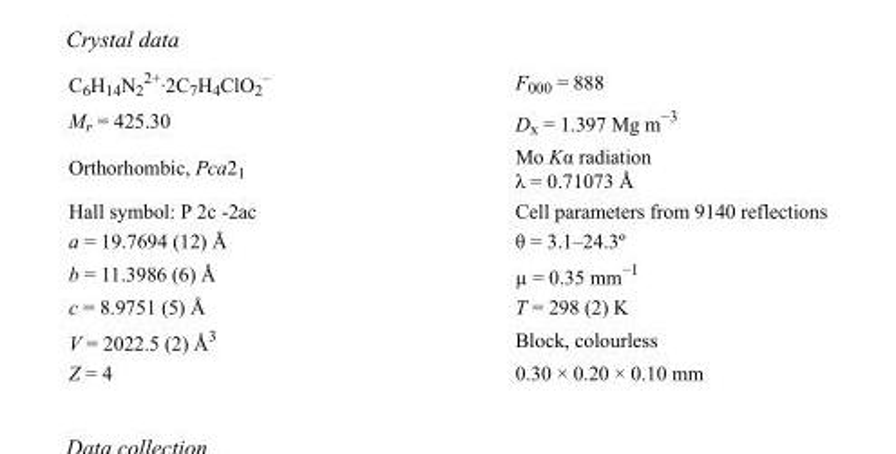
<table><tbody><tr><td>C<sub>6</sub>H<sub>14</sub>N<sub>2</sub> <sup>2+</sup>·2C<sub>7</sub>H<sub>4</sub>ClO<sub>2</sub> <sup>–</sup></td><td>F<sub>000</sub> = 888</td></tr><tr><td>M<sub>r</sub> = 425.30</td><td>D<sub>x</sub> = 1.397 Mg m<sup>−3</sup></td></tr><tr><td>Orthorhombic, Pca2<sub>1</sub></td><td>Mo Kα radiation λ = 0.71073 Å</td></tr><tr><td>Hall symbol: P 2c -2ac</td><td>Cell parameters from 9140 reflections</td></tr><tr><td>a = 19.7694 (12) Å</td><td>θ = 3.1–24.3º</td></tr><tr><td>b = 11.3986 (6) Å</td><td>µ = 0.35 mm<sup>−1</sup></td></tr><tr><td>c = 8.9751 (5) Å</td><td>T = 298 (2) K</td></tr><tr><td>V = 2022.5 (2) Å<sup>3</sup></td><td>Block, colourless</td></tr><tr><td>Z = 4</td><td>0.30 × 0.20 × 0.10 mm</td></tr></tbody></table>